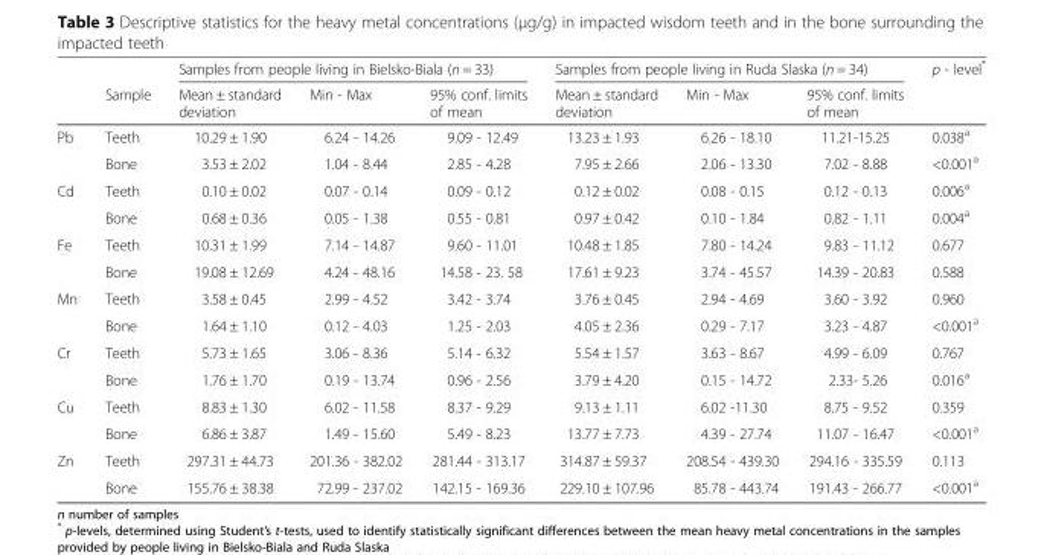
<table><thead><tr><td rowspan="2"></td><td rowspan="2">Sample</td><td colspan="3">Samples from people living in Bielsko-Biala (n = 33)</td><td colspan="3">Samples from people living in Ruda Slaska (n = 34)</td><td rowspan="2">p - level*</td></tr><tr><td>Mean ± standard deviation</td><td>Min - Max</td><td>95% conf. limits of mean</td><td>Mean ± standard deviation</td><td>Min - Max</td><td>95% conf. limits of mean</td></tr></thead><tbody><tr><td rowspan="2">Pb</td><td>Teeth</td><td>10.29 ± 1.90</td><td>6.24 - 14.26</td><td>9.09 - 12.49</td><td>13.23 ± 1.93</td><td>6.26 - 18.10</td><td>11.21-15.25</td><td>0.038<sup>a</sup></td></tr><tr><td>Bone</td><td>3.53 ± 2.02</td><td>1.04 - 8.44</td><td>2.85 - 4.28</td><td>7.95 ± 2.66</td><td>2.06 - 13.30</td><td>7.02 - 8.88</td><td>&lt;0.001<sup>a</sup></td></tr><tr><td rowspan="2">Cd</td><td>Teeth</td><td>0.10 ± 0.02</td><td>0.07 - 0.14</td><td>0.09 - 0.12</td><td>0.12 ± 0.02</td><td>0.08 - 0.15</td><td>0.12 - 0.13</td><td>0.006<sup>a</sup></td></tr><tr><td>Bone</td><td>0.68 ± 0.36</td><td>0.05 - 1.38</td><td>0.55 - 0.81</td><td>0.97 ± 0.42</td><td>0.10 - 1.84</td><td>0.82 - 1.11</td><td>0.004<sup>a</sup></td></tr><tr><td rowspan="2">Fe</td><td>Teeth</td><td>10.31 ± 1.99</td><td>7.14 - 14.87</td><td>9.60 - 11.01</td><td>10.48 ± 1.85</td><td>7.80 - 14.24</td><td>9.83 - 11.12</td><td>0.677</td></tr><tr><td>Bone</td><td>19.08 ± 12.69</td><td>4.24 - 48.16</td><td>14.58 - 23. 58</td><td>17.61 ± 9.23</td><td>3.74 - 45.57</td><td>14.39 - 20.83</td><td>0.588</td></tr><tr><td rowspan="2">Mn</td><td>Teeth</td><td>3.58 ± 0.45</td><td>2.99 - 4.52</td><td>3.42 - 3.74</td><td>3.76 ± 0.45</td><td>2.94 - 4.69</td><td>3.60 - 3.92</td><td>0.960</td></tr><tr><td>Bone</td><td>1.64 ± 1.10</td><td>0.12 - 4.03</td><td>1.25 - 2.03</td><td>4.05 ± 2.36</td><td>0.29 - 7.17</td><td>3.23 - 4.87</td><td>&lt;0.001<sup>a</sup></td></tr><tr><td rowspan="2">Cr</td><td>Teeth</td><td>5.73 ± 1.65</td><td>3.06 - 8.36</td><td>5.14 - 6.32</td><td>5.54 ± 1.57</td><td>3.63 - 8.67</td><td>4.99 - 6.09</td><td>0.767</td></tr><tr><td>Bone</td><td>1.76 ± 1.70</td><td>0.19 - 13.74</td><td>0.96 - 2.56</td><td>3.79 ± 4.20</td><td>0.15 - 14.72</td><td>2.33- 5.26</td><td>0.016<sup>a</sup></td></tr><tr><td rowspan="2">Cu</td><td>Teeth</td><td>8.83 ± 1.30</td><td>6.02 - 11.58</td><td>8.37 - 9.29</td><td>9.13 ± 1.11</td><td>6.02 -11.30</td><td>8.75 - 9.52</td><td>0.359</td></tr><tr><td>Bone</td><td>6.86 ± 3.87</td><td>1.49 - 15.60</td><td>5.49 - 8.23</td><td>13.77 ± 7.73</td><td>4.39 - 27.74</td><td>11.07 - 16.47</td><td>&lt;0.001<sup>a</sup></td></tr><tr><td rowspan="2">Zn</td><td>Teeth</td><td>297.31 ± 44.73</td><td>201.36 - 382.02</td><td>281.44 - 313.17</td><td>314.87 ± 59.37</td><td>208.54 - 439.30</td><td>294.16 - 335.59</td><td>0.113</td></tr><tr><td>Bone</td><td>155.76 ± 38.38</td><td>72.99 - 237.02</td><td>142.15 - 169.36</td><td>229.10 ± 107.96</td><td>85.78 - 443.74</td><td>191.43 - 266.77</td><td>&lt;0.001<sup>a</sup></td></tr></tbody></table>